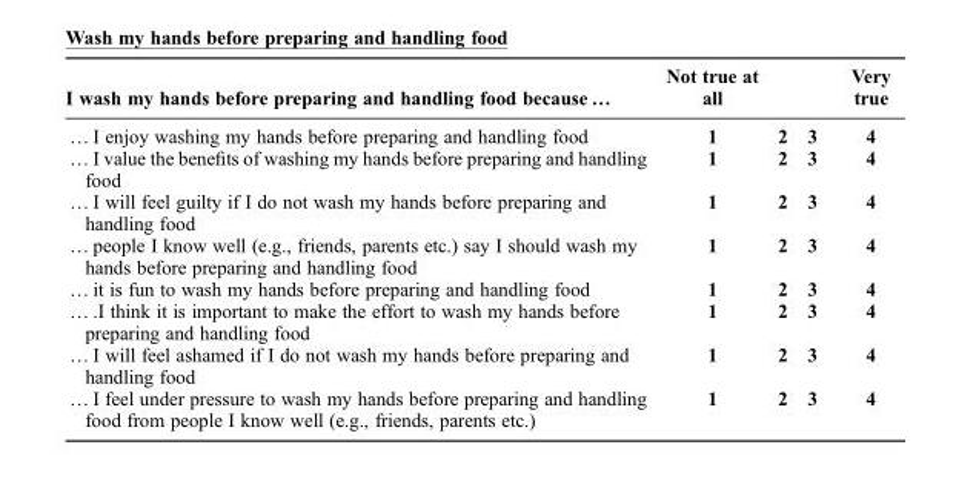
<table><thead><tr><td>I wash my hands before preparing and handling food because …</td><td>Not true at all</td><td></td><td></td><td>Very true</td></tr></thead><tbody><tr><td>… I enjoy washing my hands before preparing and handling food</td><td>1</td><td>2</td><td>3</td><td>4</td></tr><tr><td>… I value the benefits of washing my hands before preparing and handling food</td><td>1</td><td>2</td><td>3</td><td>4</td></tr><tr><td>… I will feel guilty if I do not wash my hands before preparing and handling food</td><td>1</td><td>2</td><td>3</td><td>4</td></tr><tr><td>… people I know well (e.g., friends, parents etc.) say I should wash my hands before preparing and handling food</td><td>1</td><td>2</td><td>3</td><td>4</td></tr><tr><td>… it is fun to wash my hands before preparing and handling food</td><td>1</td><td>2</td><td>3</td><td>4</td></tr><tr><td>… .I think it is important to make the effort to wash my hands before preparing and handling food</td><td>1</td><td>2</td><td>3</td><td>4</td></tr><tr><td>… I will feel ashamed if I do not wash my hands before preparing and handling food</td><td>1</td><td>2</td><td>3</td><td>4</td></tr><tr><td>… I feel under pressure to wash my hands before preparing and handling food from people I know well (e.g., friends, parents etc.)</td><td>1</td><td>2</td><td>3</td><td>4</td></tr></tbody></table>